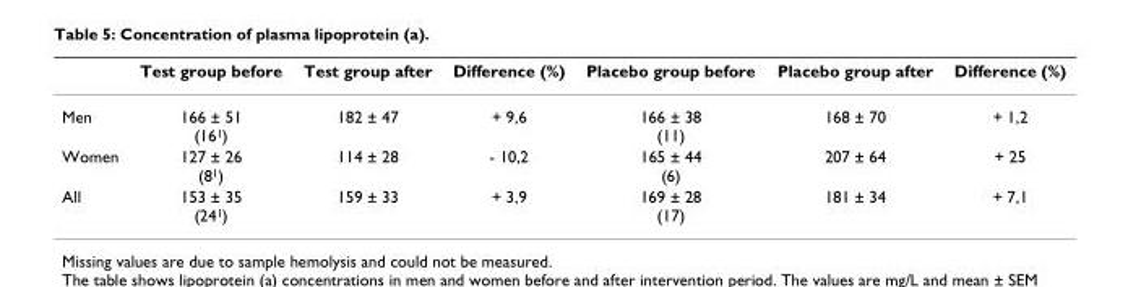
<table><thead><tr><td></td><td>Test group before</td><td>Test group after</td><td>Difference (%)</td><td>Placebo group before</td><td>Placebo group after</td><td>Difference (%)</td></tr></thead><tbody><tr><td>Men</td><td>166 ± 51 (16<sup>1</sup>)</td><td>182 ± 47</td><td>+ 9,6</td><td>166 ± 38 (11)</td><td>168 ± 70</td><td>+ 1,2</td></tr><tr><td>Women</td><td>127 ± 26 (8<sup>1</sup>)</td><td>114 ± 28</td><td>- 10,2</td><td>165 ± 44 (6)</td><td>207 ± 64</td><td>+ 25</td></tr><tr><td>All</td><td>153 ± 35 (24<sup>1</sup>)</td><td>159 ± 33</td><td>+ 3,9</td><td>169 ± 28 (17)</td><td>181 ± 34</td><td>+ 7,1</td></tr></tbody></table>